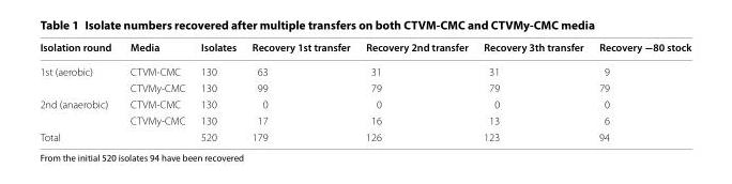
<table><thead><tr><td>Isolation round</td><td>Media</td><td>Isolates</td><td>Recovery 1st transfer</td><td>Recovery 2nd transfer</td><td>Recovery 3th transfer</td><td>Recovery −80 stock</td></tr></thead><tbody><tr><td rowspan="2">1st (aerobic)</td><td>CTVM-CMC</td><td>130</td><td>63</td><td>31</td><td>31</td><td>9</td></tr><tr><td>CTVMy-CMC</td><td>130</td><td>99</td><td>79</td><td>79</td><td>79</td></tr><tr><td rowspan="2">2nd (anaerobic)</td><td>CTVM-CMC</td><td>130</td><td>0</td><td>0</td><td>0</td><td>0</td></tr><tr><td>CTVMy-CMC</td><td>130</td><td>17</td><td>16</td><td>13</td><td>6</td></tr><tr><td>Total</td><td></td><td>520</td><td>179</td><td>126</td><td>123</td><td>94</td></tr></tbody></table>